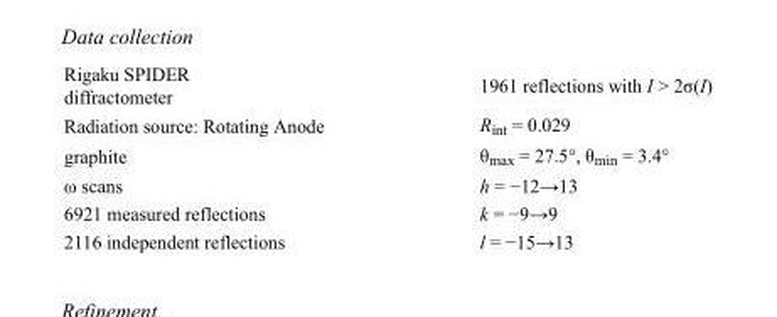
<table><tbody><tr><td>Rigaku SPIDER diffractometer</td><td>1961 reflections with I &gt; 2σ(I)</td></tr><tr><td>Radiation source: Rotating Anode</td><td>R<sub>int</sub> = 0.029</td></tr><tr><td>graphite</td><td>θ<sub>max</sub> = 27.5°, θ<sub>min</sub> = 3.4°</td></tr><tr><td>ω scans</td><td>h = −12→13</td></tr><tr><td>6921 measured reflections</td><td>k = −9→9</td></tr><tr><td>2116 independent reflections</td><td>l = −15→13</td></tr></tbody></table>